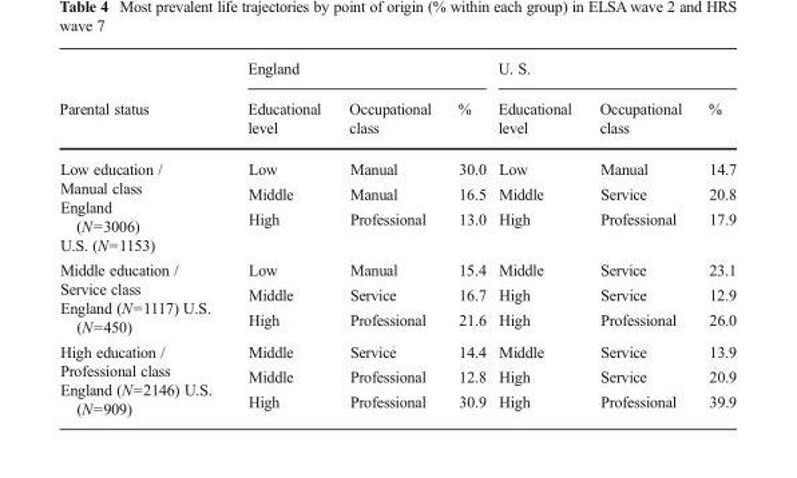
<table><thead><tr><td rowspan="2">Parental status</td><td colspan="3">England</td><td colspan="3">U. S.</td></tr><tr><td>Educational level</td><td>Occupational class</td><td>%</td><td>Educational level</td><td>Occupational class</td><td>%</td></tr></thead><tbody><tr><td rowspan="3">Low education / Manual class England (N=3006) U.S. (N=1153)</td><td>Low</td><td>Manual</td><td>30.0</td><td>Low</td><td>Manual</td><td>14.7</td></tr><tr><td>Middle</td><td>Manual</td><td>16.5</td><td>Middle</td><td>Service</td><td>20.8</td></tr><tr><td>High</td><td>Professional</td><td>13.0</td><td>High</td><td>Professional</td><td>17.9</td></tr><tr><td rowspan="3">Middle education / Service class England (N=1117) U.S. (N=450)</td><td>Low</td><td>Manual</td><td>15.4</td><td>Middle</td><td>Service</td><td>23.1</td></tr><tr><td>Middle</td><td>Service</td><td>16.7</td><td>High</td><td>Service</td><td>12.9</td></tr><tr><td>High</td><td>Professional</td><td>21.6</td><td>High</td><td>Professional</td><td>26.0</td></tr><tr><td rowspan="3">High education / Professional class England (N=2146) U.S. (N=909)</td><td>Middle</td><td>Service</td><td>14.4</td><td>Middle</td><td>Service</td><td>13.9</td></tr><tr><td>Middle</td><td>Professional</td><td>12.8</td><td>High</td><td>Service</td><td>20.9</td></tr><tr><td>High</td><td>Professional</td><td>30.9</td><td>High</td><td>Professional</td><td>39.9</td></tr></tbody></table>